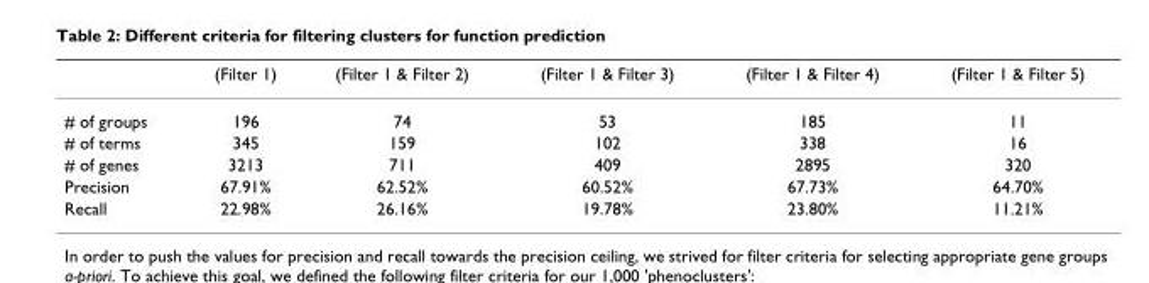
<table><thead><tr><td></td><td>(Filter 1)</td><td>(Filter 1 &amp; Filter 2)</td><td>(Filter 1 &amp; Filter 3)</td><td>(Filter 1 &amp; Filter 4)</td><td>(Filter 1 &amp; Filter 5)</td></tr></thead><tbody><tr><td># of groups</td><td>196</td><td>74</td><td>53</td><td>185</td><td>11</td></tr><tr><td># of terms</td><td>345</td><td>159</td><td>102</td><td>338</td><td>16</td></tr><tr><td># of genes</td><td>3213</td><td>711</td><td>409</td><td>2895</td><td>320</td></tr><tr><td>Precision</td><td>67.91%</td><td>62.52%</td><td>60.52%</td><td>67.73%</td><td>64.70%</td></tr><tr><td>Recall</td><td>22.98%</td><td>26.16%</td><td>19.78%</td><td>23.80%</td><td>11.21%</td></tr></tbody></table>